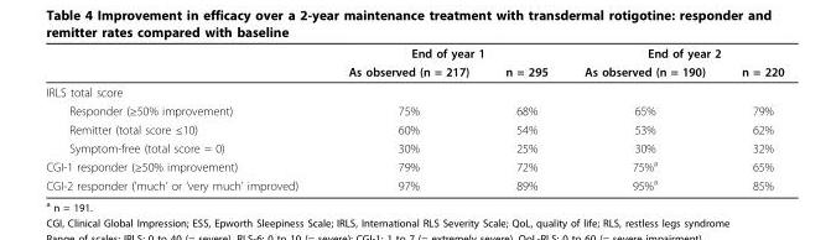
<table><thead><tr><td rowspan="2"></td><td colspan="2">End of year 1</td><td colspan="2">End of year 2</td></tr><tr><td>As observed (n = 217)</td><td>n = 295</td><td>As observed (n = 190)</td><td>n = 220</td></tr></thead><tbody><tr><td colspan="5">IRLS total score</td></tr><tr><td>Responder (≥50% improvement)</td><td>75%</td><td>68%</td><td>65%</td><td>79%</td></tr><tr><td>Remitter (total score ≤10)</td><td>60%</td><td>54%</td><td>53%</td><td>62%</td></tr><tr><td>Symptom-free (total score = 0)</td><td>30%</td><td>25%</td><td>30%</td><td>32%</td></tr><tr><td>CGI-1 responder (≥50% improvement)</td><td>79%</td><td>72%</td><td>75%<sup>a</sup></td><td>65%</td></tr><tr><td>CGI-2 responder (’much’ or ‘very much’ improved)</td><td>97%</td><td>89%</td><td>95%<sup>a</sup></td><td>85%</td></tr></tbody></table>